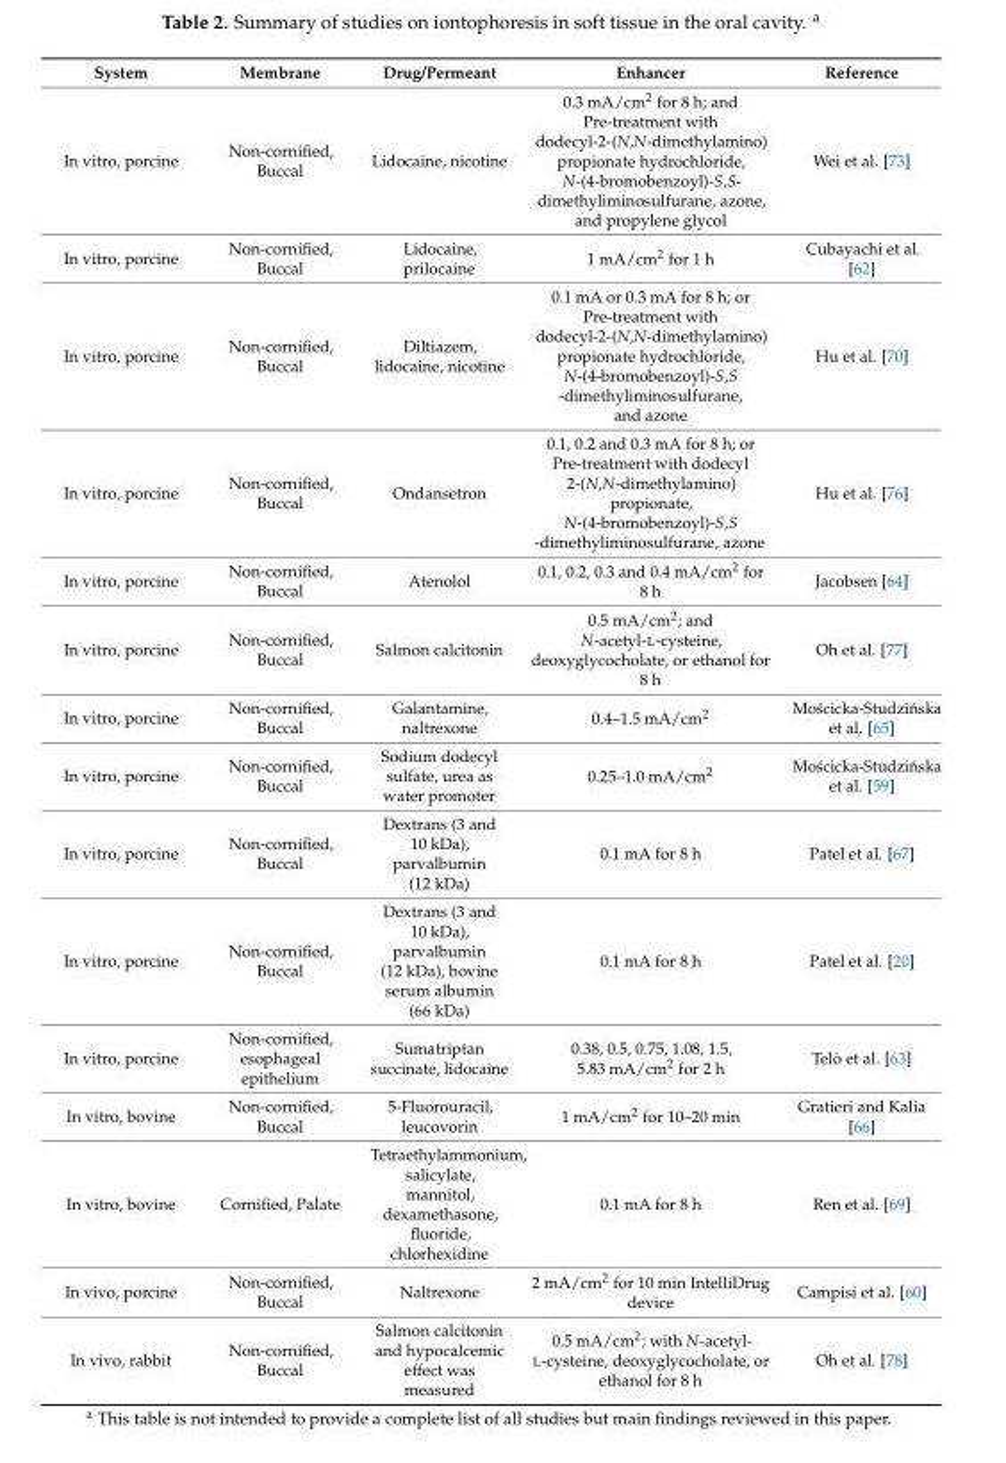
<table><thead><tr><td>System</td><td>Membrane</td><td>Drug/Permeant</td><td>Enhancer</td><td>Reference</td></tr></thead><tbody><tr><td>In vitro, porcine</td><td>Non-cornified, Buccal</td><td>Lidocaine, nicotine</td><td>0.3 mA/cm<sup>2</sup> for 8 h; and Pre-treatment with dodecyl-2-(N,N-dimethylamino) propionate hydrochloride, N-(4-bromobenzoyl)-S,S- dimethyliminosulfurane, azone, and propylene glycol</td><td>Wei et al. [73]</td></tr><tr><td>In vitro, porcine</td><td>Non-cornified, Buccal</td><td>Lidocaine, prilocaine</td><td>1 mA/cm<sup>2</sup> for 1 h</td><td>Cubayachi et al. [62]</td></tr><tr><td>In vitro, porcine</td><td>Non-cornified, Buccal</td><td>Diltiazem, lidocaine, nicotine</td><td>0.1 mA or 0.3 mA for 8 h; or Pre-treatment with dodecyl-2-(N,N-dimethylamino) propionate hydrochloride, N-(4-bromobenzoyl)-S,S -dimethyliminosulfurane, and azone</td><td>Hu et al. [70]</td></tr><tr><td>In vitro, porcine</td><td>Non-cornified, Buccal</td><td>Ondansetron</td><td>0.1, 0.2 and 0.3 mA for 8 h; or Pre-treatment with dodecyl 2-(N,N-dimethylamino) propionate, N-(4-bromobenzoyl)-S,S -dimethyliminosulfurane, azone</td><td>Hu et al. [76]</td></tr><tr><td>In vitro, porcine</td><td>Non-cornified, Buccal</td><td>Atenolol</td><td>0.1, 0.2, 0.3 and 0.4 mA/cm<sup>2</sup> for 8 h</td><td>Jacobsen [64]</td></tr><tr><td>In vitro, porcine</td><td>Non-cornified, Buccal</td><td>Salmon calcitonin</td><td>0.5 mA/cm<sup>2</sup>; and N-acetyl-L-cysteine, deoxyglycocholate, or ethanol for 8 h</td><td>Oh et al. [77]</td></tr><tr><td>In vitro, porcine</td><td>Non-cornified, Buccal</td><td>Galantamine, naltrexone</td><td>0.4–1.5 mA/cm<sup>2</sup></td><td>Mo´scicka-Studzi´nska et al. [65]</td></tr><tr><td>In vitro, porcine</td><td>Non-cornified, Buccal</td><td>Sodium dodecyl sulfate, urea as water promoter</td><td>0.25–1.0 mA/cm<sup>2</sup></td><td>Mo´scicka-Studzi´nska et al. [59]</td></tr><tr><td>In vitro, porcine</td><td>Non-cornified, Buccal</td><td>Dextrans (3 and 10 kDa), parvalbumin (12 kDa)</td><td>0.1 mA for 8 h</td><td>Patel et al. [67]</td></tr><tr><td>In vitro, porcine</td><td>Non-cornified, Buccal</td><td>Dextrans (3 and 10 kDa), parvalbumin (12 kDa), bovine serum albumin (66 kDa)</td><td>0.1 mA for 8 h</td><td>Patel et al. [20]</td></tr><tr><td>In vitro, porcine</td><td>Non-cornified, esophageal epithelium</td><td>Sumatriptan succinate, lidocaine</td><td>0.38, 0.5, 0.75, 1.08, 1.5, 5.83 mA/cm<sup>2</sup> for 2 h</td><td>Telò et al. [63]</td></tr><tr><td>In vitro, bovine</td><td>Non-cornified, Buccal</td><td>5-Fluorouracil, leucovorin</td><td>1 mA/cm<sup>2</sup> for 10–20 min</td><td>Gratieri and Kalia [66]</td></tr><tr><td>In vitro, bovine</td><td>Cornified, Palate</td><td>Tetraethylammonium, salicylate, mannitol, dexamethasone, fluoride, chlorhexidine</td><td>0.1 mA for 8 h</td><td>Ren et al. [69]</td></tr><tr><td>In vivo, porcine</td><td>Non-cornified, Buccal</td><td>Naltrexone</td><td>2 mA/cm<sup>2</sup> for 10 min IntelliDrug device</td><td>Campisi et al. [60]</td></tr><tr><td>In vivo, rabbit</td><td>Non-cornified, Buccal</td><td>Salmon calcitonin and hypocalcemic effect was measured</td><td>0.5 mA/cm<sup>2</sup>; with N-acetyl- L-cysteine, deoxyglycocholate, or ethanol for 8 h</td><td>Oh et al. [78]</td></tr></tbody></table>